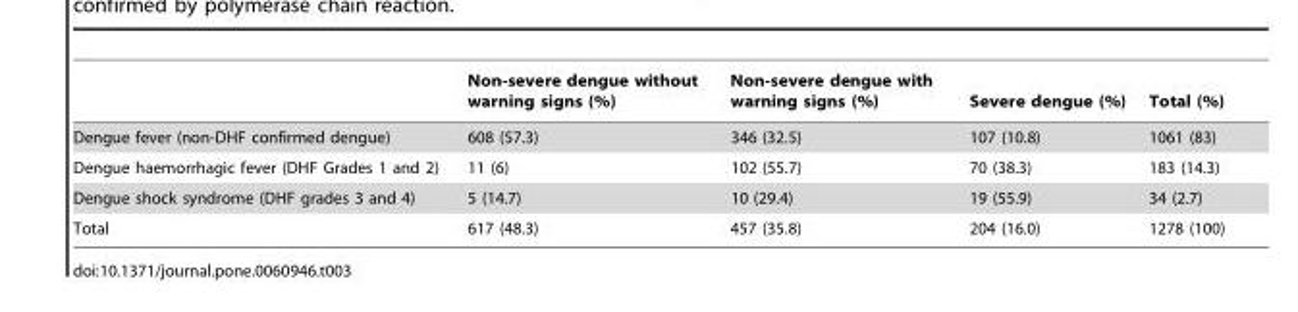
<table><thead><tr><td></td><td>Non-severe dengue without warning signs (%)</td><td>Non-severe dengue with warning signs (%)</td><td>Severe dengue (%)</td><td>Total (%)</td></tr></thead><tbody><tr><td>Dengue fever (non-DHF confirmed dengue)</td><td>608 (57.3)</td><td>346 (32.5)</td><td>107 (10.8)</td><td>1061 (83)</td></tr><tr><td>Dengue haemorrhagic fever (DHF Grades 1 and 2)</td><td>11 (6)</td><td>102 (55.7)</td><td>70 (38.3)</td><td>183 (14.3)</td></tr><tr><td>Dengue shock syndrome (DHF grades 3 and 4)</td><td>5 (14.7)</td><td>10 (29.4)</td><td>19 (55.9)</td><td>34 (2.7)</td></tr><tr><td>Total</td><td>617 (48.3)</td><td>457 (35.8)</td><td>204 (16.0)</td><td>1278 (100)</td></tr></tbody></table>